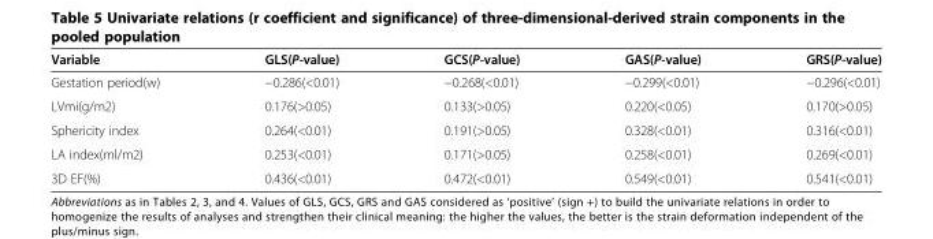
<table><thead><tr><td>Variable</td><td>GLS(P-value)</td><td>GCS(P-value)</td><td>GAS(P-value)</td><td>GRS(P-value)</td></tr></thead><tbody><tr><td>Gestation period(w)</td><td>−0.286(&lt;0.01)</td><td>−0.268(&lt;0.01)</td><td>−0.299(&lt;0.01)</td><td>−0.296(&lt;0.01)</td></tr><tr><td>LVmi(g/m2)</td><td>0.176(&gt;0.05)</td><td>0.133(&gt;0.05)</td><td>0.220(&lt;0.05)</td><td>0.170(&gt;0.05)</td></tr><tr><td>Sphericity index</td><td>0.264(&lt;0.01)</td><td>0.191(&gt;0.05)</td><td>0.328(&lt;0.01)</td><td>0.316(&lt;0.01)</td></tr><tr><td>LA index(ml/m2)</td><td>0.253(&lt;0.01)</td><td>0.171(&gt;0.05)</td><td>0.258(&lt;0.01)</td><td>0.269(&lt;0.01)</td></tr><tr><td>3D EF(%)</td><td>0.436(&lt;0.01)</td><td>0.472(&lt;0.01)</td><td>0.549(&lt;0.01)</td><td>0.541(&lt;0.01)</td></tr></tbody></table>